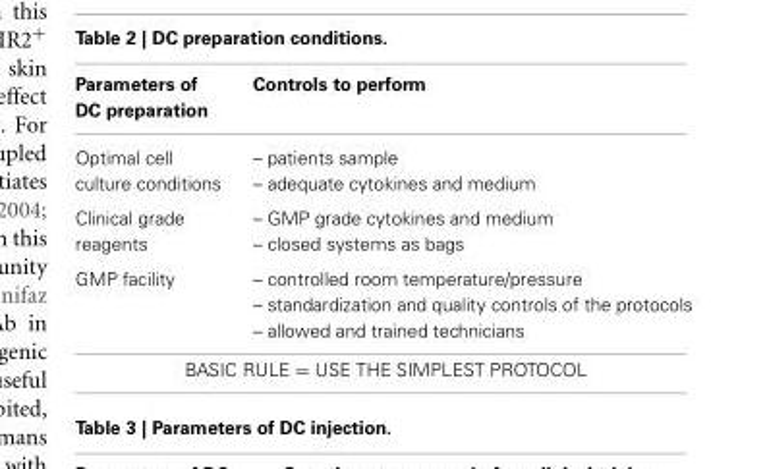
<table><thead><tr><td>Parameters of DC preparation</td><td>Controls to perform</td></tr></thead><tbody><tr><td>Optimal cell culture conditions</td><td>– patients sample – adequate cytokines and medium</td></tr><tr><td>Clinical grade reagents</td><td>– GMP grade cytokines and medium – closed systems as bags</td></tr><tr><td>GMP facility</td><td>– controlled room temperature/pressure – standardization and quality controls of the protocols – allowed and trained technicians</td></tr><tr><td colspan="2">BASIC RULE = USE THE SIMPLEST PROTOCOL</td></tr></tbody></table>